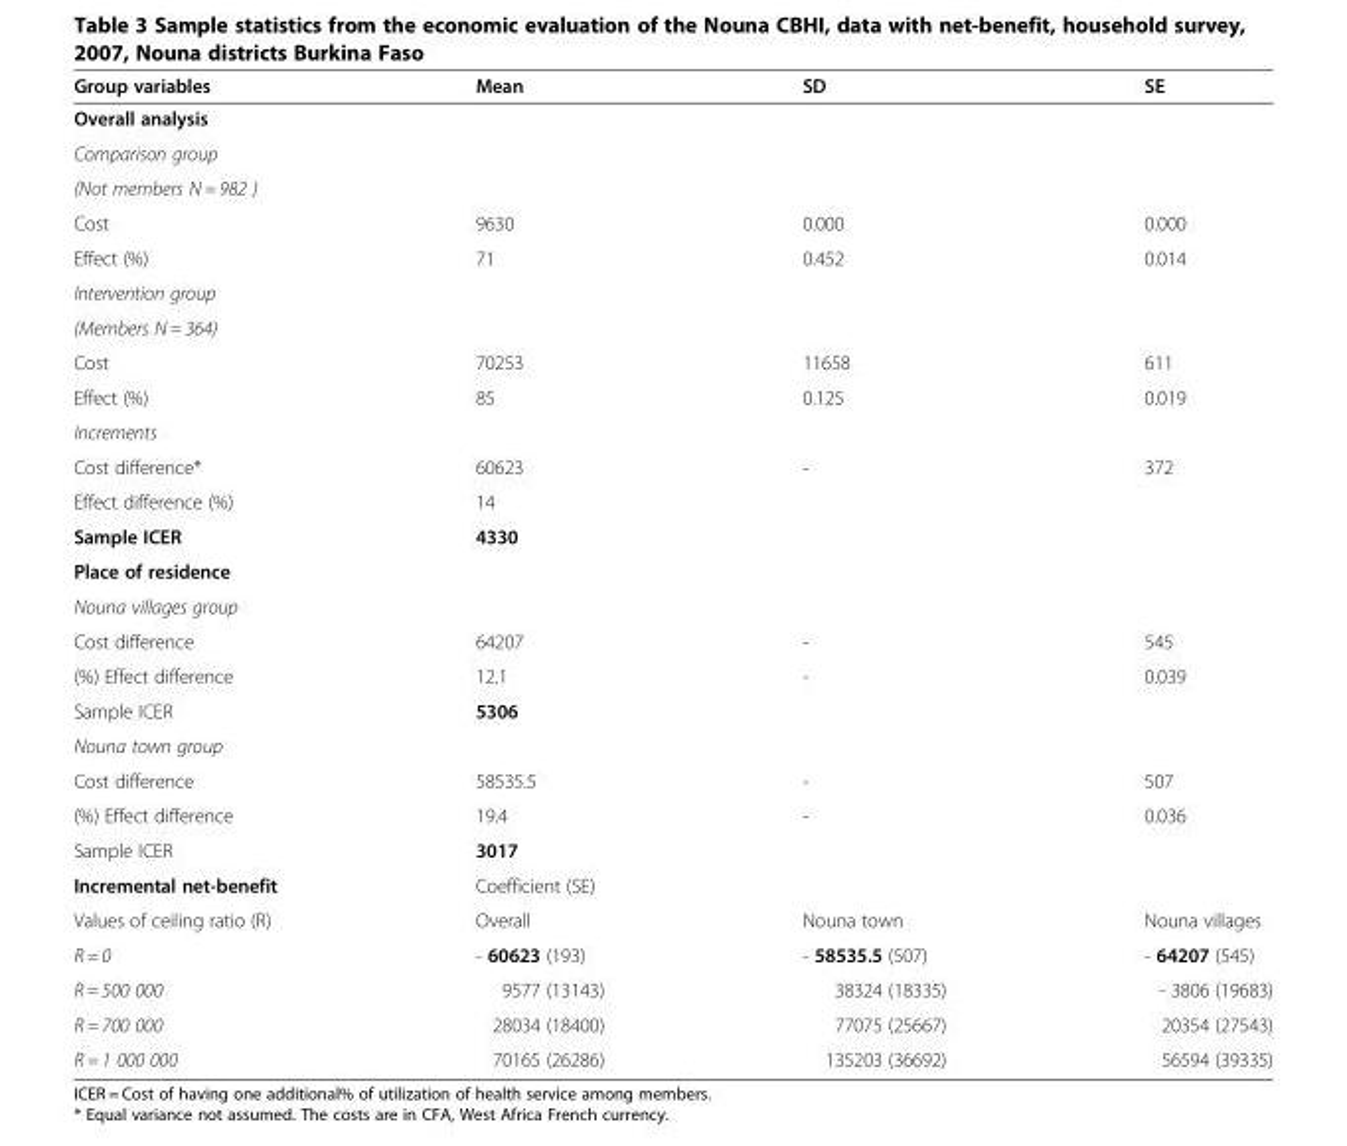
<table><tbody><tr><td>Group variables</td><td>Mean</td><td>SD</td><td>SE</td></tr><tr><td colspan="4">Overall analysis</td></tr><tr><td colspan="4">Comparison group</td></tr><tr><td colspan="4">(Not members N = 982 )</td></tr><tr><td>Cost</td><td>9630</td><td>0.000</td><td>0.000</td></tr><tr><td>Effect (%)</td><td>71</td><td>0.452</td><td>0.014</td></tr><tr><td colspan="4">Intervention group</td></tr><tr><td colspan="4">(Members N = 364)</td></tr><tr><td>Cost</td><td>70253</td><td>11658</td><td>611</td></tr><tr><td>Effect (%)</td><td>85</td><td>0.125</td><td>0.019</td></tr><tr><td colspan="4">Increments</td></tr><tr><td>Cost difference*</td><td>60623</td><td>-</td><td>372</td></tr><tr><td>Effect difference (%)</td><td>14</td><td></td><td></td></tr><tr><td>Sample ICER</td><td>4330</td><td></td><td></td></tr><tr><td colspan="4">Place of residence</td></tr><tr><td colspan="4">Nouna villages group</td></tr><tr><td>Cost difference</td><td>64207</td><td>-</td><td>545</td></tr><tr><td>(%) Effect difference</td><td>12.1</td><td>-</td><td>0.039</td></tr><tr><td>Sample ICER</td><td>5306</td><td></td><td></td></tr><tr><td colspan="4">Nouna town group</td></tr><tr><td>Cost difference</td><td>58535.5</td><td>-</td><td>507</td></tr><tr><td>(%) Effect difference</td><td>19.4</td><td>-</td><td>0.036</td></tr><tr><td>Sample ICER</td><td>3017</td><td></td><td></td></tr><tr><td>Incremental net-benefit</td><td>Coefficient (SE)</td><td></td><td></td></tr><tr><td>Values of ceiling ratio (R)</td><td>Overall</td><td>Nouna town</td><td>Nouna villages</td></tr><tr><td>R = 0</td><td>- 60623 (193)</td><td>- 58535.5 (507)</td><td>- 64207 (545)</td></tr><tr><td>R = 500 000</td><td>9577 (13143)</td><td>38324 (18335)</td><td>- 3806 (19683)</td></tr><tr><td>R = 700 000</td><td>28034 (18400)</td><td>77075 (25667)</td><td>20354 (27543)</td></tr><tr><td>R = 1 000 000</td><td>70165 (26286)</td><td>135203 (36692)</td><td>56594 (39335)</td></tr></tbody></table>